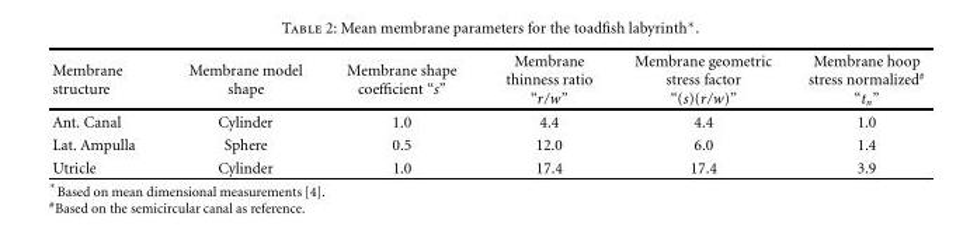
<table><thead><tr><td>Membrane structure</td><td>Membrane model shape</td><td>Membrane shape coefficient “s”</td><td>Membrane thinness ratio “r/w”</td><td>Membrane geometric stress factor “(s)(r/w)”</td><td>Membrane hoop stress normalized<sup>#</sup> “t<sub>n</sub>”</td></tr></thead><tbody><tr><td>Ant. Canal</td><td>Cylinder</td><td>1.0</td><td>4.4</td><td>4.4</td><td>1.0</td></tr><tr><td>Lat. Ampulla</td><td>Sphere</td><td>0.5</td><td>12.0</td><td>6.0</td><td>1.4</td></tr><tr><td>Utricle</td><td>Cylinder</td><td>1.0</td><td>17.4</td><td>17.4</td><td>3.9</td></tr></tbody></table>